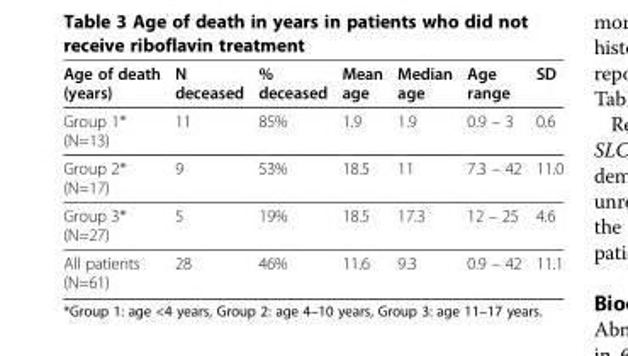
<table><thead><tr><td>Age of death (years)</td><td>N deceased</td><td>% deceased</td><td>Mean age</td><td>Median age</td><td>Age range</td><td>SD</td></tr></thead><tbody><tr><td>Group 1* (N=13)</td><td>11</td><td>85%</td><td>1.9</td><td>1.9</td><td>0.9 – 3</td><td>0.6</td></tr><tr><td>Group 2* (N=17)</td><td>9</td><td>53%</td><td>18.5</td><td>11</td><td>7.3 – 42</td><td>11.0</td></tr><tr><td>Group 3* (N=27)</td><td>5</td><td>19%</td><td>18.5</td><td>17.3</td><td>12 – 25</td><td>4.6</td></tr><tr><td>All patients (N=61)</td><td>28</td><td>46%</td><td>11.6</td><td>9.3</td><td>0.9 – 42</td><td>11.1</td></tr></tbody></table>